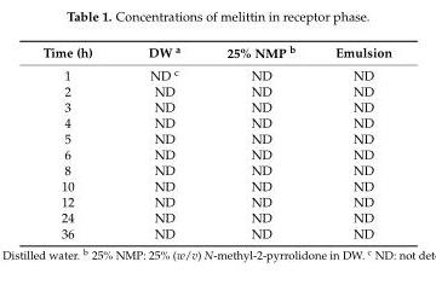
<table><thead><tr><td>Time (h)</td><td>DW <sup>a</sup></td><td>25% NMP <sup>b</sup></td><td>Emulsion</td></tr></thead><tbody><tr><td>1</td><td>ND <sup>c</sup></td><td>ND</td><td>ND</td></tr><tr><td>2</td><td>ND</td><td>ND</td><td>ND</td></tr><tr><td>3</td><td>ND</td><td>ND</td><td>ND</td></tr><tr><td>4</td><td>ND</td><td>ND</td><td>ND</td></tr><tr><td>5</td><td>ND</td><td>ND</td><td>ND</td></tr><tr><td>6</td><td>ND</td><td>ND</td><td>ND</td></tr><tr><td>8</td><td>ND</td><td>ND</td><td>ND</td></tr><tr><td>10</td><td>ND</td><td>ND</td><td>ND</td></tr><tr><td>12</td><td>ND</td><td>ND</td><td>ND</td></tr><tr><td>24</td><td>ND</td><td>ND</td><td>ND</td></tr><tr><td>36</td><td>ND</td><td>ND</td><td>ND</td></tr></tbody></table>